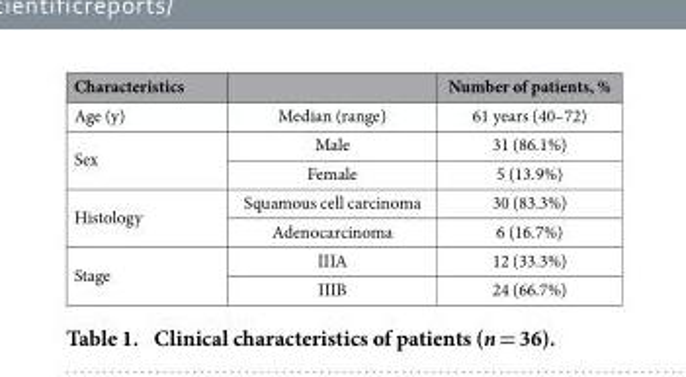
<table><thead><tr><td>Characteristics</td><td></td><td>Number of patients, %</td></tr></thead><tbody><tr><td>Age (y)</td><td>Median (range)</td><td>61 years (40–72)</td></tr><tr><td rowspan="2">Sex</td><td>Male</td><td>31 (86.1%)</td></tr><tr><td>Female</td><td>5 (13.9%)</td></tr><tr><td rowspan="2">Histology</td><td>Squamous cell carcinoma</td><td>30 (83.3%)</td></tr><tr><td>Adenocarcinoma</td><td>6 (16.7%)</td></tr><tr><td rowspan="2">Stage</td><td>IIIA</td><td>12 (33.3%)</td></tr><tr><td>IIIB</td><td>24 (66.7%)</td></tr></tbody></table>